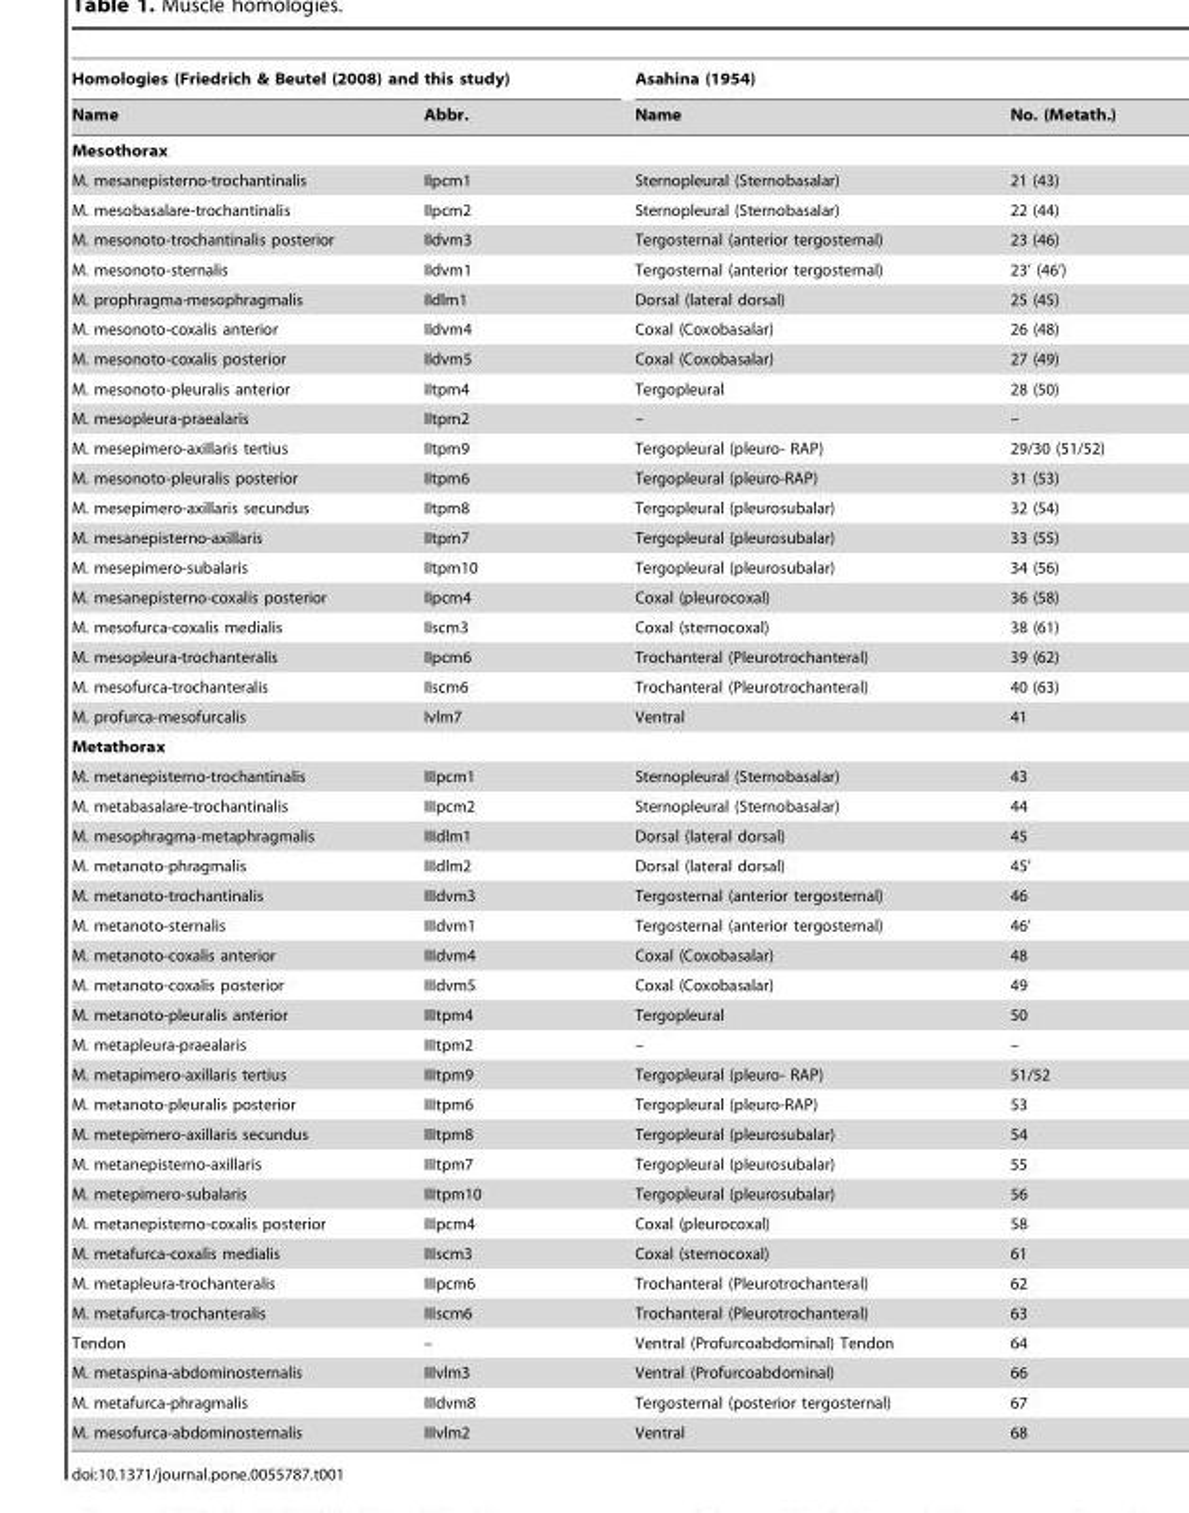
<table><thead><tr><td colspan="2">Homologies (Friedrich &amp; Beutel (2008) and this study)</td><td colspan="2">Asahina (1954)</td></tr><tr><td>Name</td><td>Abbr.</td><td>Name</td><td>No. (Metath.)</td></tr></thead><tbody><tr><td colspan="4">Mesothorax</td></tr><tr><td>M. mesanepisterno-trochantinalis</td><td>IIpcm1</td><td>Sternopleural (Sternobasalar)</td><td>21 (43)</td></tr><tr><td>M. mesobasalare-trochantinalis</td><td>IIpcm2</td><td>Sternopleural (Sternobasalar)</td><td>22 (44)</td></tr><tr><td>M. mesonoto-trochantinalis posterior</td><td>IIdvm3</td><td>Tergosternal (anterior tergosternal)</td><td>23 (46)</td></tr><tr><td>M. mesonoto-sternalis</td><td>IIdvm1</td><td>Tergosternal (anterior tergosternal)</td><td>23’ (46’)</td></tr><tr><td>M. prophragma-mesophragmalis</td><td>IIdlm1</td><td>Dorsal (lateral dorsal)</td><td>25 (45)</td></tr><tr><td>M. mesonoto-coxalis anterior</td><td>IIdvm4</td><td>Coxal (Coxobasalar)</td><td>26 (48)</td></tr><tr><td>M. mesonoto-coxalis posterior</td><td>IIdvm5</td><td>Coxal (Coxobasalar)</td><td>27 (49)</td></tr><tr><td>M. mesonoto-pleuralis anterior</td><td>IItpm4</td><td>Tergopleural</td><td>28 (50)</td></tr><tr><td>M. mesopleura-praealaris</td><td>IItpm2</td><td>–</td><td>–</td></tr><tr><td>M. mesepimero-axillaris tertius</td><td>IItpm9</td><td>Tergopleural (pleuro- RAP)</td><td>29/30 (51/52)</td></tr><tr><td>M. mesonoto-pleuralis posterior</td><td>IItpm6</td><td>Tergopleural (pleuro-RAP)</td><td>31 (53)</td></tr><tr><td>M. mesepimero-axillaris secundus</td><td>IItpm8</td><td>Tergopleural (pleurosubalar)</td><td>32 (54)</td></tr><tr><td>M. mesanepisterno-axillaris</td><td>IItpm7</td><td>Tergopleural (pleurosubalar)</td><td>33 (55)</td></tr><tr><td>M. mesepimero-subalaris</td><td>IItpm10</td><td>Tergopleural (pleurosubalar)</td><td>34 (56)</td></tr><tr><td>M. mesanepisterno-coxalis posterior</td><td>IIpcm4</td><td>Coxal (pleurocoxal)</td><td>36 (58)</td></tr><tr><td>M. mesofurca-coxalis medialis</td><td>IIscm3</td><td>Coxal (sternocoxal)</td><td>38 (61)</td></tr><tr><td>M. mesopleura-trochanteralis</td><td>IIpcm6</td><td>Trochanteral (Pleurotrochanteral)</td><td>39 (62)</td></tr><tr><td>M. mesofurca-trochanteralis</td><td>IIscm6</td><td>Trochanteral (Pleurotrochanteral)</td><td>40 (63)</td></tr><tr><td>M. profurca-mesofurcalis</td><td>Ivlm7</td><td>Ventral</td><td>41</td></tr><tr><td colspan="4">Metathorax</td></tr><tr><td>M. metanepisterno-trochantinalis</td><td>IIIpcm1</td><td>Sternopleural (Sternobasalar)</td><td>43</td></tr><tr><td>M. metabasalare-trochantinalis</td><td>IIIpcm2</td><td>Sternopleural (Sternobasalar)</td><td>44</td></tr><tr><td>M. mesophragma-metaphragmalis</td><td>IIIdlm1</td><td>Dorsal (lateral dorsal)</td><td>45</td></tr><tr><td>M. metanoto-phragmalis</td><td>IIIdlm2</td><td>Dorsal (lateral dorsal)</td><td>45’</td></tr><tr><td>M. metanoto-trochantinalis</td><td>IIIdvm3</td><td>Tergosternal (anterior tergosternal)</td><td>46</td></tr><tr><td>M. metanoto-sternalis</td><td>IIIdvm1</td><td>Tergosternal (anterior tergosternal)</td><td>46’</td></tr><tr><td>M. metanoto-coxalis anterior</td><td>IIIdvm4</td><td>Coxal (Coxobasalar)</td><td>48</td></tr><tr><td>M. metanoto-coxalis posterior</td><td>IIIdvm5</td><td>Coxal (Coxobasalar)</td><td>49</td></tr><tr><td>M. metanoto-pleuralis anterior</td><td>IIItpm4</td><td>Tergopleural</td><td>50</td></tr><tr><td>M. metapleura-praealaris</td><td>IIItpm2</td><td>–</td><td>–</td></tr><tr><td>M. metapimero-axillaris tertius</td><td>IIItpm9</td><td>Tergopleural (pleuro- RAP)</td><td>51/52</td></tr><tr><td>M. metanoto-pleuralis posterior</td><td>IIItpm6</td><td>Tergopleural (pleuro-RAP)</td><td>53</td></tr><tr><td>M. metepimero-axillaris secundus</td><td>IIItpm8</td><td>Tergopleural (pleurosubalar)</td><td>54</td></tr><tr><td>M. metanepisterno-axillaris</td><td>IIItpm7</td><td>Tergopleural (pleurosubalar)</td><td>55</td></tr><tr><td>M. metepimero-subalaris</td><td>IIItpm10</td><td>Tergopleural (pleurosubalar)</td><td>56</td></tr><tr><td>M. metanepisterno-coxalis posterior</td><td>IIIpcm4</td><td>Coxal (pleurocoxal)</td><td>58</td></tr><tr><td>M. metafurca-coxalis medialis</td><td>IIIscm3</td><td>Coxal (sternocoxal)</td><td>61</td></tr><tr><td>M. metapleura-trochanteralis</td><td>IIIpcm6</td><td>Trochanteral (Pleurotrochanteral)</td><td>62</td></tr><tr><td>M. metafurca-trochanteralis</td><td>IIIscm6</td><td>Trochanteral (Pleurotrochanteral)</td><td>63</td></tr><tr><td>Tendon</td><td>–</td><td>Ventral (Profurcoabdominal) Tendon</td><td>64</td></tr><tr><td>M. metaspina-abdominosternalis</td><td>IIIvlm3</td><td>Ventral (Profurcoabdominal)</td><td>66</td></tr><tr><td>M. metafurca-phragmalis</td><td>IIIdvm8</td><td>Tergosternal (posterior tergosternal)</td><td>67</td></tr><tr><td>M. mesofurca-abdominosternalis</td><td>IIIvlm2</td><td>Ventral</td><td>68</td></tr></tbody></table>